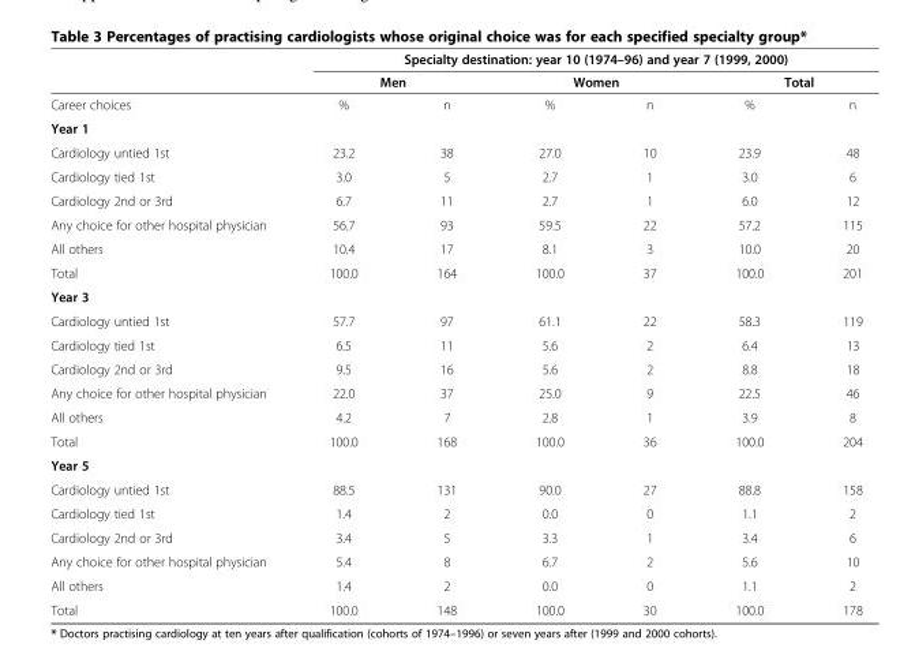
<table><thead><tr><td rowspan="3">Career choices</td><td colspan="6">Specialty destination: year 10 (1974–96) and year 7 (1999, 2000)</td></tr><tr><td colspan="2">Men</td><td colspan="2">Women</td><td colspan="2">Total</td></tr><tr><td>%</td><td>n</td><td>%</td><td>n</td><td>%</td><td>n</td></tr></thead><tbody><tr><td colspan="7">Year 1</td></tr><tr><td>Cardiology untied 1st</td><td>23.2</td><td>38</td><td>27.0</td><td>10</td><td>23.9</td><td>48</td></tr><tr><td>Cardiology tied 1st</td><td>3.0</td><td>5</td><td>2.7</td><td>1</td><td>3.0</td><td>6</td></tr><tr><td>Cardiology 2nd or 3rd</td><td>6.7</td><td>11</td><td>2.7</td><td>1</td><td>6.0</td><td>12</td></tr><tr><td>Any choice for other hospital physician</td><td>56.7</td><td>93</td><td>59.5</td><td>22</td><td>57.2</td><td>115</td></tr><tr><td>All others</td><td>10.4</td><td>17</td><td>8.1</td><td>3</td><td>10.0</td><td>20</td></tr><tr><td>Total</td><td>100.0</td><td>164</td><td>100.0</td><td>37</td><td>100.0</td><td>201</td></tr><tr><td colspan="7">Year 3</td></tr><tr><td>Cardiology untied 1st</td><td>57.7</td><td>97</td><td>61.1</td><td>22</td><td>58.3</td><td>119</td></tr><tr><td>Cardiology tied 1st</td><td>6.5</td><td>11</td><td>5.6</td><td>2</td><td>6.4</td><td>13</td></tr><tr><td>Cardiology 2nd or 3rd</td><td>9.5</td><td>16</td><td>5.6</td><td>2</td><td>8.8</td><td>18</td></tr><tr><td>Any choice for other hospital physician</td><td>22.0</td><td>37</td><td>25.0</td><td>9</td><td>22.5</td><td>46</td></tr><tr><td>All others</td><td>4.2</td><td>7</td><td>2.8</td><td>1</td><td>3.9</td><td>8</td></tr><tr><td>Total</td><td>100.0</td><td>168</td><td>100.0</td><td>36</td><td>100.0</td><td>204</td></tr><tr><td colspan="7">Year 5</td></tr><tr><td>Cardiology untied 1st</td><td>88.5</td><td>131</td><td>90.0</td><td>27</td><td>88.8</td><td>158</td></tr><tr><td>Cardiology tied 1st</td><td>1.4</td><td>2</td><td>0.0</td><td>0</td><td>1.1</td><td>2</td></tr><tr><td>Cardiology 2nd or 3rd</td><td>3.4</td><td>5</td><td>3.3</td><td>1</td><td>3.4</td><td>6</td></tr><tr><td>Any choice for other hospital physician</td><td>5.4</td><td>8</td><td>6.7</td><td>2</td><td>5.6</td><td>10</td></tr><tr><td>All others</td><td>1.4</td><td>2</td><td>0.0</td><td>0</td><td>1.1</td><td>2</td></tr><tr><td>Total</td><td>100.0</td><td>148</td><td>100.0</td><td>30</td><td>100.0</td><td>178</td></tr></tbody></table>